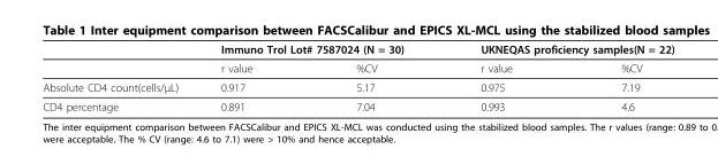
<table><thead><tr><td rowspan="2"></td><td colspan="2">Immuno Trol Lot# 7587024 (N = 30)</td><td colspan="2">UKNEQAS proficiency samples(N = 22)</td></tr><tr><td>r value</td><td>%CV</td><td>r value</td><td>%CV</td></tr></thead><tbody><tr><td>Absolute CD4 count(cells/μL)</td><td>0.917</td><td>5.17</td><td>0.975</td><td>7.19</td></tr><tr><td>CD4 percentage</td><td>0.891</td><td>7.04</td><td>0.993</td><td>4.6</td></tr></tbody></table>